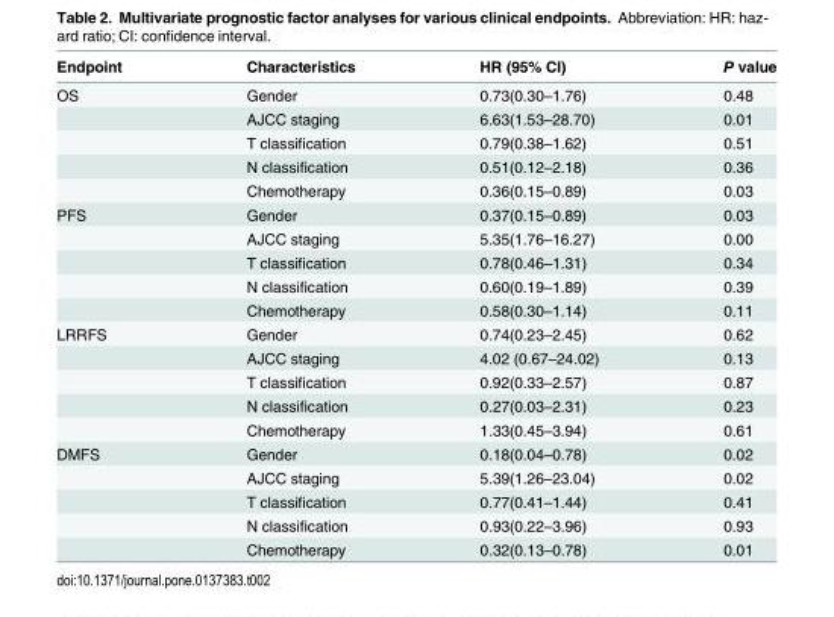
<table><thead><tr><td>Endpoint</td><td>Characteristics</td><td>HR (95% CI)</td><td>P value</td></tr></thead><tbody><tr><td rowspan="5">OS</td><td>Gender</td><td>0.73(0.30–1.76)</td><td>0.48</td></tr><tr><td>AJCC staging</td><td>6.63(1.53–28.70)</td><td>0.01</td></tr><tr><td>T classification</td><td>0.79(0.38–1.62)</td><td>0.51</td></tr><tr><td>N classification</td><td>0.51(0.12–2.18)</td><td>0.36</td></tr><tr><td>Chemotherapy</td><td>0.36(0.15–0.89)</td><td>0.03</td></tr><tr><td rowspan="5">PFS</td><td>Gender</td><td>0.37(0.15–0.89)</td><td>0.03</td></tr><tr><td>AJCC staging</td><td>5.35(1.76–16.27)</td><td>0.00</td></tr><tr><td>T classification</td><td>0.78(0.46–1.31)</td><td>0.34</td></tr><tr><td>N classification</td><td>0.60(0.19–1.89)</td><td>0.39</td></tr><tr><td>Chemotherapy</td><td>0.58(0.30–1.14)</td><td>0.11</td></tr><tr><td rowspan="5">LRRFS</td><td>Gender</td><td>0.74(0.23–2.45)</td><td>0.62</td></tr><tr><td>AJCC staging</td><td>4.02 (0.67–24.02)</td><td>0.13</td></tr><tr><td>T classification</td><td>0.92(0.33–2.57)</td><td>0.87</td></tr><tr><td>N classification</td><td>0.27(0.03–2.31)</td><td>0.23</td></tr><tr><td>Chemotherapy</td><td>1.33(0.45–3.94)</td><td>0.61</td></tr><tr><td rowspan="5">DMFS</td><td>Gender</td><td>0.18(0.04–0.78)</td><td>0.02</td></tr><tr><td>AJCC staging</td><td>5.39(1.26–23.04)</td><td>0.02</td></tr><tr><td>T classification</td><td>0.77(0.41–1.44)</td><td>0.41</td></tr><tr><td>N classification</td><td>0.93(0.22–3.96)</td><td>0.93</td></tr><tr><td>Chemotherapy</td><td>0.32(0.13–0.78)</td><td>0.01</td></tr></tbody></table>